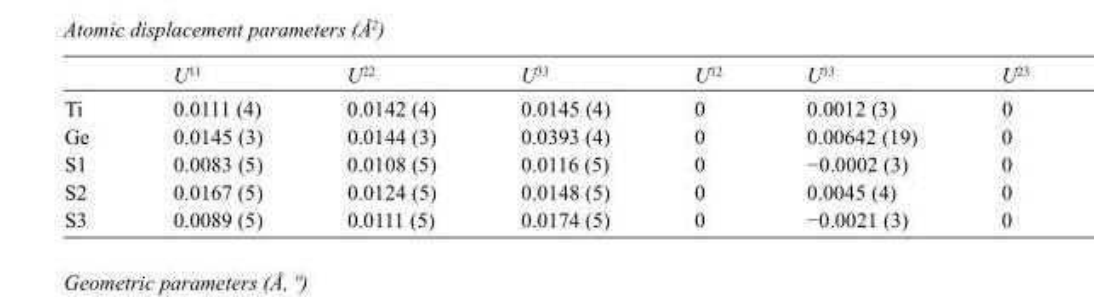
<table><thead><tr><td></td><td>U<sup>11</sup></td><td>U<sup>22</sup></td><td>U<sup>33</sup></td><td>U<sup>12</sup></td><td>U<sup>13</sup></td><td>U<sup>23</sup></td></tr></thead><tbody><tr><td>Ti</td><td>0.0111 (4)</td><td>0.0142 (4)</td><td>0.0145 (4)</td><td>0</td><td>0.0012 (3)</td><td>0</td></tr><tr><td>Ge</td><td>0.0145 (3)</td><td>0.0144 (3)</td><td>0.0393 (4)</td><td>0</td><td>0.00642 (19)</td><td>0</td></tr><tr><td>S1</td><td>0.0083 (5)</td><td>0.0108 (5)</td><td>0.0116 (5)</td><td>0</td><td>−0.0002 (3)</td><td>0</td></tr><tr><td>S2</td><td>0.0167 (5)</td><td>0.0124 (5)</td><td>0.0148 (5)</td><td>0</td><td>0.0045 (4)</td><td>0</td></tr><tr><td>S3</td><td>0.0089 (5)</td><td>0.0111 (5)</td><td>0.0174 (5)</td><td>0</td><td>−0.0021 (3)</td><td>0</td></tr></tbody></table>